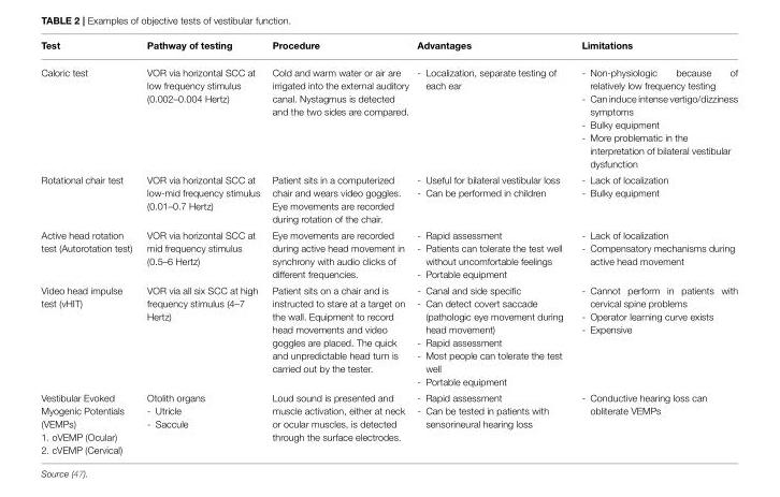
<table><thead><tr><td>Test</td><td>Pathway of testing</td><td>Procedure</td><td>Advantages</td><td>Limitations</td></tr></thead><tbody><tr><td>Caloric test</td><td>VOR via horizontal SCC at low frequency stimulus (0.002–0.004 Hertz)</td><td>Cold and warm water or air are irrigated into the external auditory canal. Nystagmus is detected and the two sides are compared.</td><td>- Localization, separate testing of each ear</td><td>- Non-physiologic because of relatively low frequency testing - Can induce intense vertigo/dizziness symptoms - Bulky equipment - More problematic in the interpretation of bilateral vestibular dysfunction</td></tr><tr><td>Rotational chair test</td><td>VOR via horizontal SCC at low-mid frequency stimulus (0.01–0.7 Hertz)</td><td>Patient sits in a computerized chair and wears video goggles. Eye movements are recorded during rotation of the chair.</td><td>- Useful for bilateral vestibular loss - Can be performed in children</td><td>- Lack of localization - Bulky equipment</td></tr><tr><td>Active head rotation test (Autorotation test)</td><td>VOR via horizontal SCC at mid frequency stimulus (0.5–6 Hertz)</td><td>Eye movements are recorded during active head movement in synchrony with audio clicks of different frequencies.</td><td>- Rapid assessment - Patients can tolerate the test well without uncomfortable feelings - Portable equipment</td><td>- Lack of localization - Compensatory mechanisms during active head movement</td></tr><tr><td>Video head impulse test (vHIT)</td><td>VOR via all six SCC at high frequency stimulus (4–7 Hertz)</td><td>Patient sits on a chair and is instructed to stare at a target on the wall. Equipment to record head movements and video goggles are placed. The quick and unpredictable head turn is carried out by the tester.</td><td>- Canal and side specific - Can detect covert saccade (pathologic eye movement during head movement) - Rapid assessment - Most people can tolerate the test well - Portable equipment</td><td>- Cannot perform in patients with cervical spine problems - Operator learning curve exists - Expensive</td></tr><tr><td>Vestibular Evoked Myogenic Potentials (VEMPs) 1. oVEMP (Ocular) 2. cVEMP (Cervical)</td><td>Otolith organs - Utricle - Saccule</td><td>Loud sound is presented and muscle activation, either at neck or ocular muscles, is detected through the surface electrodes.</td><td>- Rapid assessment - Can be tested in patients with sensorineural hearing loss</td><td>- Conductive hearing loss can obliterate VEMPs</td></tr></tbody></table>